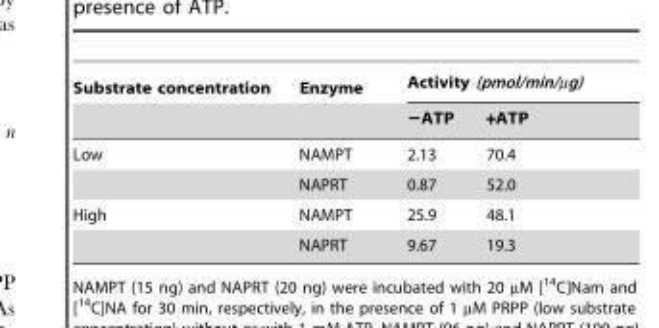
<table><thead><tr><td rowspan="2">Substrate concentration</td><td rowspan="2">Enzyme</td><td colspan="2">Activity (pmol/min/µg)</td></tr><tr><td>−ATP</td><td>+ATP</td></tr></thead><tbody><tr><td rowspan="2">Low</td><td>NAMPT</td><td>2.13</td><td>70.4</td></tr><tr><td>NAPRT</td><td>0.87</td><td>52.0</td></tr><tr><td rowspan="2">High</td><td>NAMPT</td><td>25.9</td><td>48.1</td></tr><tr><td>NAPRT</td><td>9.67</td><td>19.3</td></tr></tbody></table>